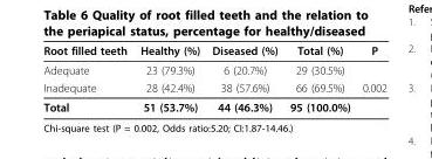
<table><thead><tr><td>Root filled teeth</td><td>Healthy (%)</td><td>Diseased (%)</td><td>Total (%)</td><td>P</td></tr></thead><tbody><tr><td>Adequate</td><td>23 (79.3%)</td><td>6 (20.7%)</td><td>29 (30.5%)</td><td></td></tr><tr><td>Inadequate</td><td>28 (42.4%)</td><td>38 (57.6%)</td><td>66 (69.5%)</td><td>0.002</td></tr><tr><td>Total</td><td>51 (53.7%)</td><td>44 (46.3%)</td><td>95 (100.0%)</td><td></td></tr></tbody></table>